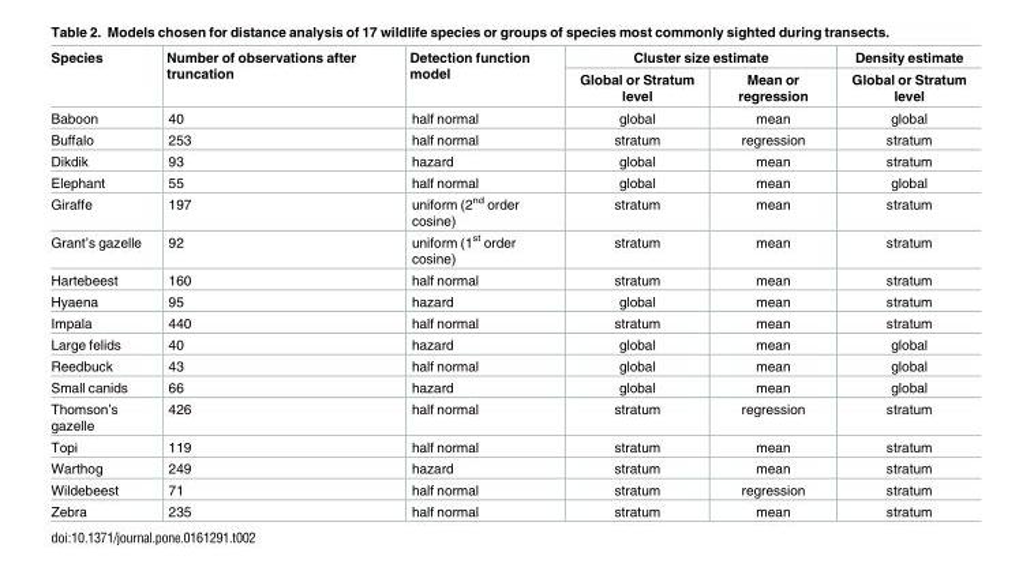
<table><thead><tr><td rowspan="2">Species</td><td rowspan="2">Number of observations after truncation</td><td rowspan="2">Detection function model</td><td colspan="2">Cluster size estimate</td><td rowspan="2">Density estimate Global or Stratum level</td></tr><tr><td>Global or Stratum level</td><td>Mean or regression</td></tr></thead><tbody><tr><td>Baboon</td><td>40</td><td>half normal</td><td>global</td><td>mean</td><td>global</td></tr><tr><td>Buffalo</td><td>253</td><td>half normal</td><td>stratum</td><td>regression</td><td>stratum</td></tr><tr><td>Dikdik</td><td>93</td><td>hazard</td><td>global</td><td>mean</td><td>stratum</td></tr><tr><td>Elephant</td><td>55</td><td>half normal</td><td>global</td><td>mean</td><td>global</td></tr><tr><td>Giraffe</td><td>197</td><td>uniform (2<sup>nd</sup> order cosine)</td><td>stratum</td><td>mean</td><td>stratum</td></tr><tr><td>Grant’s gazelle</td><td>92</td><td>uniform (1<sup>st</sup> order cosine)</td><td>stratum</td><td>mean</td><td>stratum</td></tr><tr><td>Hartebeest</td><td>160</td><td>half normal</td><td>stratum</td><td>mean</td><td>stratum</td></tr><tr><td>Hyaena</td><td>95</td><td>hazard</td><td>global</td><td>mean</td><td>stratum</td></tr><tr><td>Impala</td><td>440</td><td>half normal</td><td>stratum</td><td>mean</td><td>stratum</td></tr><tr><td>Large felids</td><td>40</td><td>hazard</td><td>global</td><td>mean</td><td>global</td></tr><tr><td>Reedbuck</td><td>43</td><td>half normal</td><td>global</td><td>mean</td><td>global</td></tr><tr><td>Small canids</td><td>66</td><td>hazard</td><td>global</td><td>mean</td><td>global</td></tr><tr><td>Thomson’s gazelle</td><td>426</td><td>half normal</td><td>stratum</td><td>regression</td><td>stratum</td></tr><tr><td>Topi</td><td>119</td><td>half normal</td><td>stratum</td><td>mean</td><td>stratum</td></tr><tr><td>Warthog</td><td>249</td><td>hazard</td><td>stratum</td><td>mean</td><td>stratum</td></tr><tr><td>Wildebeest</td><td>71</td><td>half normal</td><td>stratum</td><td>regression</td><td>stratum</td></tr><tr><td>Zebra</td><td>235</td><td>half normal</td><td>stratum</td><td>mean</td><td>stratum</td></tr></tbody></table>